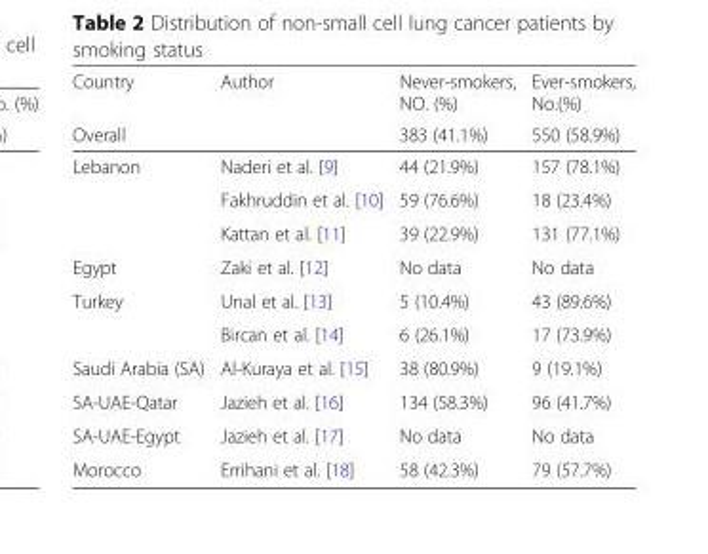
<table><thead><tr><td rowspan="2">Country Overall</td><td rowspan="2">Author</td><td rowspan="2">Never-smokers, NO. (%) 383 (41.1%)</td><td rowspan="2">Ever-smokers, No.(%) 550 (58.9%)</td></tr><tr></tr></thead><tbody><tr><td rowspan="3">Lebanon</td><td>Naderi et al. [9]</td><td>44 (21.9%)</td><td>157 (78.1%)</td></tr><tr><td>Fakhruddin et al. [10]</td><td>59 (76.6%)</td><td>18 (23.4%)</td></tr><tr><td>Kattan et al. [11]</td><td>39 (22.9%)</td><td>131 (77.1%)</td></tr><tr><td>Egypt</td><td>Zaki et al. [12]</td><td>No data</td><td>No data</td></tr><tr><td rowspan="2">Turkey</td><td>Unal et al. [13]</td><td>5 (10.4%)</td><td>43 (89.6%)</td></tr><tr><td>Bircan et al. [14]</td><td>6 (26.1%)</td><td>17 (73.9%)</td></tr><tr><td>Saudi Arabia (SA)</td><td>Al-Kuraya et al. [15]</td><td>38 (80.9%)</td><td>9 (19.1%)</td></tr><tr><td>SA-UAE-Qatar</td><td>Jazieh et al. [16]</td><td>134 (58.3%)</td><td>96 (41.7%)</td></tr><tr><td>SA-UAE-Egypt</td><td>Jazieh et al. [17]</td><td>No data</td><td>No data</td></tr><tr><td>Morocco</td><td>Errihani et al. [18]</td><td>58 (42.3%)</td><td>79 (57.7%)</td></tr></tbody></table>